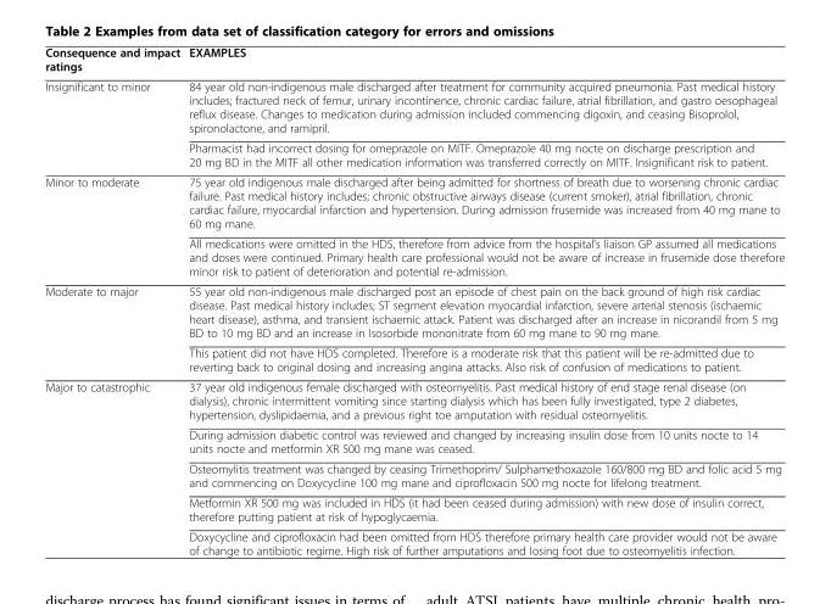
<table><thead><tr><td>Consequence and impact ratings</td><td>EXAMPLES</td></tr></thead><tbody><tr><td rowspan="2">Insignificant to minor</td><td>84 year old non-indigenous male discharged after treatment for community acquired pneumonia. Past medical history includes; fractured neck of femur, urinary incontinence, chronic cardiac failure, atrial fibrillation, and gastro oesophageal reflux disease. Changes to medication during admission included commencing digoxin, and ceasing Bisoprolol, spironolactone, and ramipril.</td></tr><tr><td>Pharmacist had incorrect dosing for omeprazole on MITF. Omeprazole 40 mg nocte on discharge prescription and 20 mg BD in the MITF all other medication information was transferred correctly on MITF. Insignificant risk to patient.</td></tr><tr><td rowspan="2">Minor to moderate</td><td>75 year old indigenous male discharged after being admitted for shortness of breath due to worsening chronic cardiac failure. Past medical history includes; chronic obstructive airways disease (current smoker), atrial fibrillation, chronic cardiac failure, myocardial infarction and hypertension. During admission frusemide was increased from 40 mg mane to 60 mg mane.</td></tr><tr><td>All medications were omitted in the HDS, therefore from advice from the hospital’s liaison GP assumed all medications and doses were continued. Primary health care professional would not be aware of increase in frusemide dose therefore minor risk to patient of deterioration and potential re-admission.</td></tr><tr><td rowspan="2">Moderate to major</td><td>55 year old non-indigenous male discharged post an episode of chest pain on the back ground of high risk cardiac disease. Past medical history includes; ST segment elevation myocardial infarction, severe arterial stenosis (ischaemic heart disease), asthma, and transient ischaemic attack. Patient was discharged after an increase in nicorandil from 5 mg BD to 10 mg BD and an increase in Isosorbide mononitrate from 60 mg mane to 90 mg mane.</td></tr><tr><td>This patient did not have HDS completed. Therefore is a moderate risk that this patient will be re-admitted due to reverting back to original dosing and increasing angina attacks. Also risk of confusion of medications to patient.</td></tr><tr><td rowspan="5">Major to catastrophic</td><td>37 year old indigenous female discharged with osteomyelitis. Past medical history of end stage renal disease (on dialysis), chronic intermittent vomiting since starting dialysis which has been fully investigated, type 2 diabetes, hypertension, dyslipidaemia, and a previous right toe amputation with residual osteomyelitis.</td></tr><tr><td>During admission diabetic control was reviewed and changed by increasing insulin dose from 10 units nocte to 14 units nocte and metformin XR 500 mg mane was ceased.</td></tr><tr><td>Osteomylitis treatment was changed by ceasing Trimethoprim/ Sulphamethoxazole 160/800 mg BD and folic acid 5 mg and commencing on Doxycycline 100 mg mane and ciprofloxacin 500 mg nocte for lifelong treatment.</td></tr><tr><td>Metformin XR 500 mg was included in HDS (it had been ceased during admission) with new dose of insulin correct, therefore putting patient at risk of hypoglycaemia.</td></tr><tr><td>Doxycycline and ciprofloxacin had been omitted from HDS therefore primary health care provider would not be aware of change to antibiotic regime. High risk of further amputations and losing foot due to osteomyelitis infection.</td></tr></tbody></table>